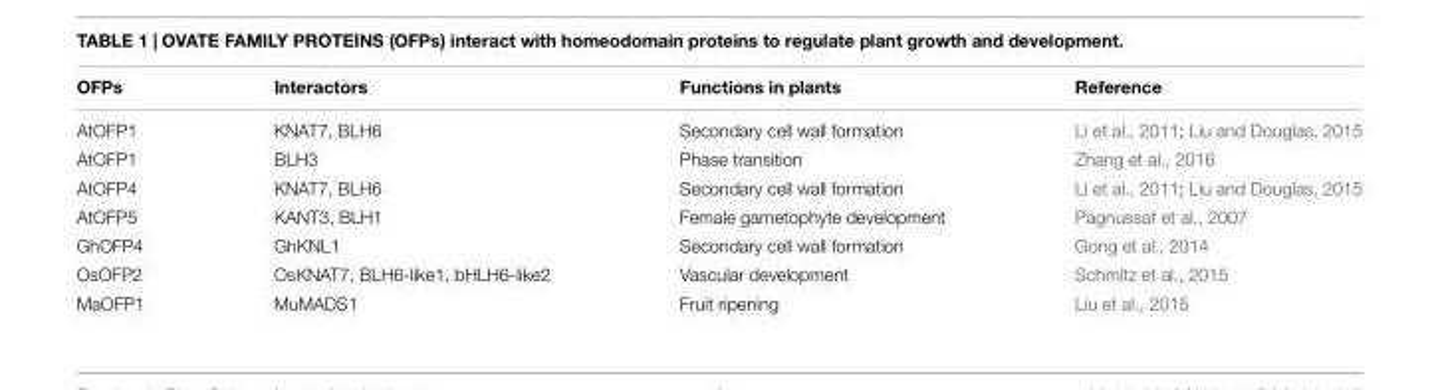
<table><thead><tr><td>OFPs</td><td>Interactors</td><td>Functions in plants</td><td>Reference</td></tr></thead><tbody><tr><td>AtOFP1</td><td>KNAT7, BLH6</td><td>Secondary cell wall formation</td><td>Li et al., 2011; Liu and Douglas, 2015</td></tr><tr><td>AtOFP1</td><td>BLH3</td><td>Phase transition</td><td>Zhang et al., 2016</td></tr><tr><td>AtOFP4</td><td>KNAT7, BLH6</td><td>Secondary cell wall formation</td><td>Li et al., 2011; Liu and Douglas, 2015</td></tr><tr><td>AtOFP5</td><td>KANT3, BLH1</td><td>Female gametophyte development</td><td>Pagnussat et al., 2007</td></tr><tr><td>GhOFP4</td><td>GhKNL1</td><td>Secondary cell wall formation</td><td>Gong et al., 2014</td></tr><tr><td>OsOFP2</td><td>OsKNAT7, BLH6-like1, bHLH6-like2</td><td>Vascular development</td><td>Schmitz et al., 2015</td></tr><tr><td>MaOFP1</td><td>MuMADS1</td><td>Fruit ripening</td><td>Liu et al., 2015</td></tr></tbody></table>